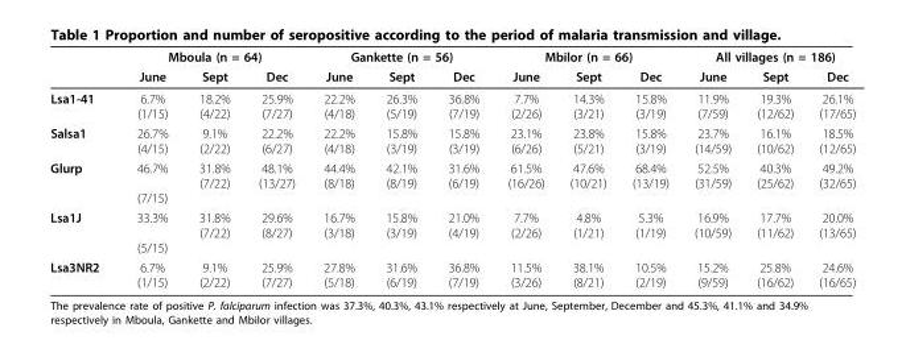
<table><thead><tr><td rowspan="2"></td><td colspan="3">Mboula (n = 64)</td><td colspan="3">Gankette (n = 56)</td><td colspan="3">Mbilor (n = 66)</td><td colspan="3">All villages (n = 186)</td></tr><tr><td>June</td><td>Sept</td><td>Dec</td><td>June</td><td>Sept</td><td>Dec</td><td>June</td><td>Sept</td><td>Dec</td><td>June</td><td>Sept</td><td>Dec</td></tr></thead><tbody><tr><td>Lsa1-41</td><td>6.7% (1/15)</td><td>18.2% (4/22)</td><td>25.9% (7/27)</td><td>22.2% (4/18)</td><td>26.3% (5/19)</td><td>36.8% (7/19)</td><td>7.7% (2/26)</td><td>14.3% (3/21)</td><td>15.8% (3/19)</td><td>11.9% (7/59)</td><td>19.3% (12/62)</td><td>26.1% (17/65)</td></tr><tr><td>Salsa1</td><td>26.7% (4/15)</td><td>9.1% (2/22)</td><td>22.2% (6/27)</td><td>22.2% (4/18)</td><td>15.8% (3/19)</td><td>15.8% (3/19)</td><td>23.1% (6/26)</td><td>23.8% (5/21)</td><td>15.8% (3/19)</td><td>23.7% (14/59)</td><td>16.1% (10/62)</td><td>18.5% (12/65)</td></tr><tr><td>Glurp</td><td>46.7% (7/15)</td><td>31.8% (7/22)</td><td>48.1% (13/27)</td><td>44.4% (8/18)</td><td>42.1% (8/19)</td><td>31.6% (6/19)</td><td>61.5% (16/26)</td><td>47.6% (10/21)</td><td>68.4% (13/19)</td><td>52.5% (31/59)</td><td>40.3% (25/62)</td><td>49.2% (32/65)</td></tr><tr><td>Lsa1J</td><td>33.3% (5/15)</td><td>31.8% (7/22)</td><td>29.6% (8/27)</td><td>16.7% (3/18)</td><td>15.8% (3/19)</td><td>21.0% (4/19)</td><td>7.7% (2/26)</td><td>4.8% (1/21)</td><td>5.3% (1/19)</td><td>16.9% (10/59)</td><td>17.7% (11/62)</td><td>20.0% (13/65)</td></tr><tr><td>Lsa3NR2</td><td>6.7% (1/15)</td><td>9.1% (2/22)</td><td>25.9% (7/27)</td><td>27.8% (5/18)</td><td>31.6% (6/19)</td><td>36.8% (7/19)</td><td>11.5% (3/26)</td><td>38.1% (8/21)</td><td>10.5% (2/19)</td><td>15.2% (9/59)</td><td>25.8% (16/62)</td><td>24.6% (16/65)</td></tr></tbody></table>